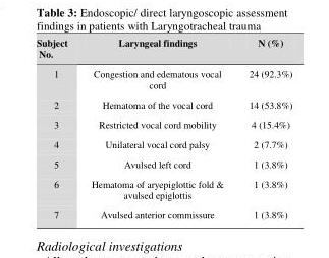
<table><thead><tr><td>Subject No.</td><td>Laryngeal findings</td><td>N (%)</td></tr></thead><tbody><tr><td>1</td><td>Congestion and edematous vocal cord</td><td>24 (92.3%)</td></tr><tr><td>2</td><td>Hematoma of the vocal cord</td><td>14 (53.8%)</td></tr><tr><td>3</td><td>Restricted vocal cord mobility</td><td>4 (15.4%)</td></tr><tr><td>4</td><td>Unilateral vocal cord palsy</td><td>2 (7.7%)</td></tr><tr><td>5</td><td>Avulsed left cord</td><td>1 (3.8%)</td></tr><tr><td>6</td><td>Hematoma of aryepiglottic fold &amp; avulsed epiglottis</td><td>1 (3.8%)</td></tr><tr><td>7</td><td>Avulsed anterior commissure</td><td>1 (3.8%)</td></tr></tbody></table>